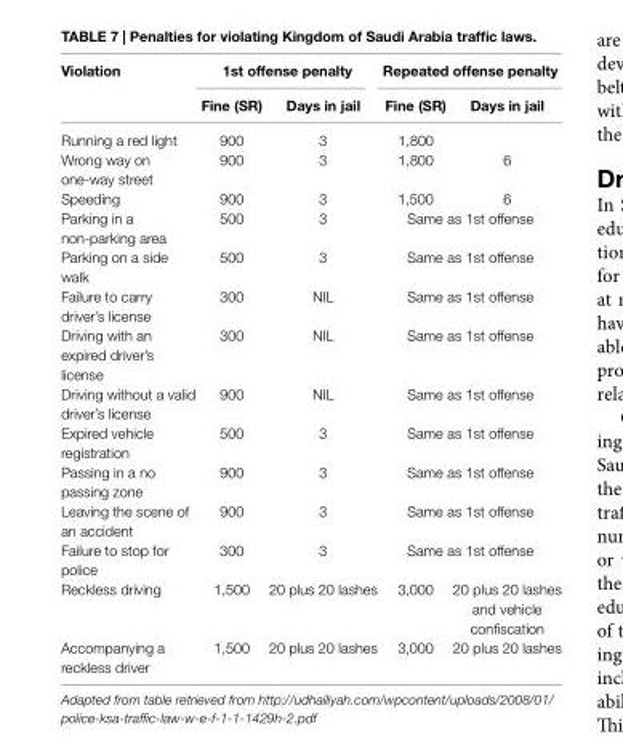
<table><thead><tr><td rowspan="2">Violation</td><td colspan="2">1st offense penalty</td><td colspan="2">repeated offense penalty</td></tr><tr><td>Fine (sr)</td><td>Days in jail</td><td>Fine (sr)</td><td>Days in jail</td></tr></thead><tbody><tr><td>Running a red light</td><td>900</td><td>3</td><td>1,800</td><td></td></tr><tr><td>Wrong way on one-way street</td><td>900</td><td>3</td><td>1,800</td><td>6</td></tr><tr><td>Speeding</td><td>900</td><td>3</td><td>1,500</td><td>6</td></tr><tr><td>Parking in a non-parking area</td><td>500</td><td>3</td><td colspan="2">Same as 1st offense</td></tr><tr><td>Parking on a side walk</td><td>500</td><td>3</td><td colspan="2">Same as 1st offense</td></tr><tr><td>Failure to carry driver’s license</td><td>300</td><td>NIL</td><td colspan="2">Same as 1st offense</td></tr><tr><td>Driving with an expired driver’s license</td><td>300</td><td>NIL</td><td colspan="2">Same as 1st offense</td></tr><tr><td>Driving without a valid driver’s license</td><td>900</td><td>NIL</td><td colspan="2">Same as 1st offense</td></tr><tr><td>Expired vehicle registration</td><td>500</td><td>3</td><td colspan="2">Same as 1st offense</td></tr><tr><td>Passing in a no passing zone</td><td>900</td><td>3</td><td colspan="2">Same as 1st offense</td></tr><tr><td>Leaving the scene of an accident</td><td>900</td><td>3</td><td colspan="2">Same as 1st offense</td></tr><tr><td>Failure to stop for police</td><td>300</td><td>3</td><td colspan="2">Same as 1st offense</td></tr><tr><td>Reckless driving</td><td>1,500</td><td>20 plus 20 lashes</td><td>3,000</td><td>20 plus 20 lashes and vehicle confiscation</td></tr><tr><td>Accompanying a reckless driver</td><td>1,500</td><td>20 plus 20 lashes</td><td>3,000</td><td>20 plus 20 lashes</td></tr></tbody></table>